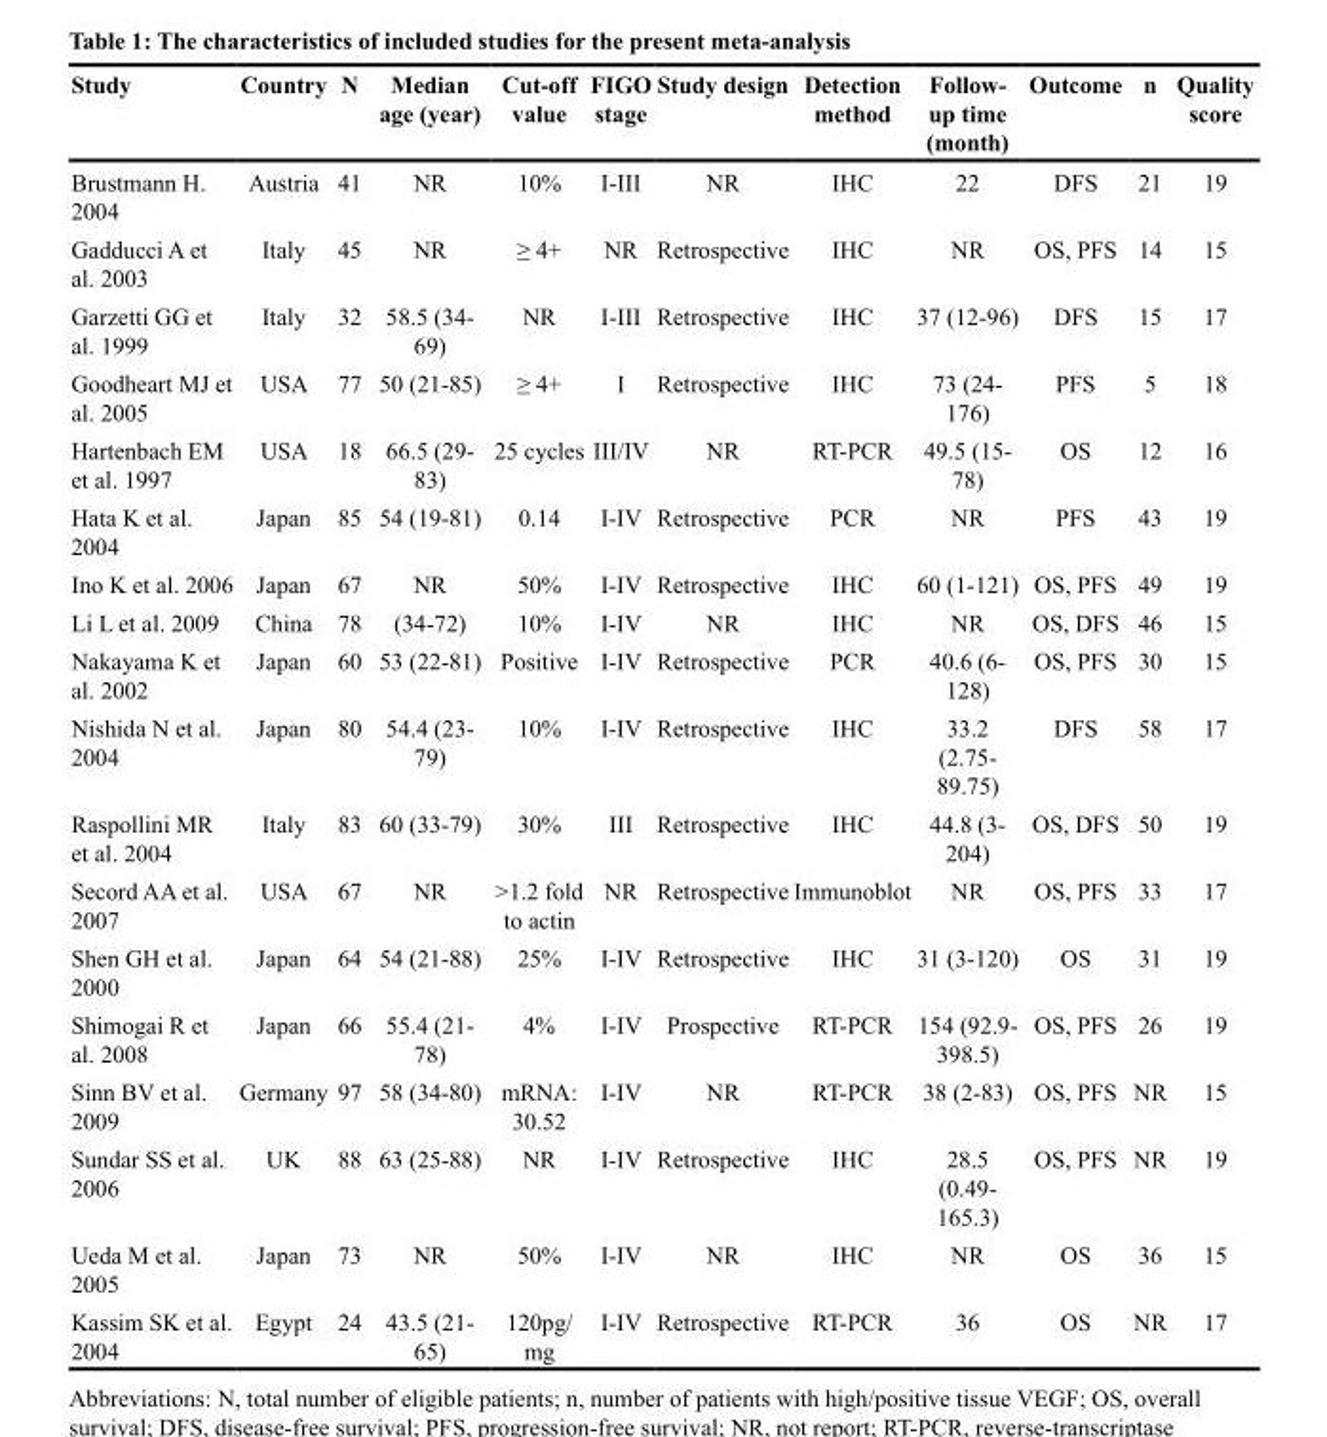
<table><thead><tr><td>Study</td><td>Country</td><td>N</td><td>Median age (year)</td><td>Cut-off value</td><td>FIGO stage</td><td>Study design</td><td>Detection method</td><td>Follow- up time (month)</td><td>Outcome</td><td>n</td><td>Quality score</td></tr></thead><tbody><tr><td>Brustmann H. 2004</td><td>Austria</td><td>41</td><td>NR</td><td>10%</td><td>I-III</td><td>NR</td><td>IHC</td><td>22</td><td>DFS</td><td>21</td><td>19</td></tr><tr><td>Gadducci A et al. 2003</td><td>Italy</td><td>45</td><td>NR</td><td>≥ 4+</td><td>NR</td><td>Retrospective</td><td>IHC</td><td>NR</td><td>OS, PFS</td><td>14</td><td>15</td></tr><tr><td>Garzetti GG et al. 1999</td><td>Italy</td><td>32</td><td>58.5 (34- 69)</td><td>NR</td><td>I-III</td><td>Retrospective</td><td>IHC</td><td>37 (12-96)</td><td>DFS</td><td>15</td><td>17</td></tr><tr><td>Goodheart MJ et al. 2005</td><td>USA</td><td>77</td><td>50 (21-85)</td><td>≥ 4+</td><td>I</td><td>Retrospective</td><td>IHC</td><td>73 (24- 176)</td><td>PFS</td><td>5</td><td>18</td></tr><tr><td>Hartenbach EM et al. 1997</td><td>USA</td><td>18</td><td>66.5 (29- 83)</td><td>25 cycles</td><td>III/IV</td><td>NR</td><td>RT-PCR</td><td>49.5 (15- 78)</td><td>OS</td><td>12</td><td>16</td></tr><tr><td>Hata K et al. 2004</td><td>Japan</td><td>85</td><td>54 (19-81)</td><td>0.14</td><td>I-IV</td><td>Retrospective</td><td>PCR</td><td>NR</td><td>PFS</td><td>43</td><td>19</td></tr><tr><td>Ino K et al. 2006</td><td>Japan</td><td>67</td><td>NR</td><td>50%</td><td>I-IV</td><td>Retrospective</td><td>IHC</td><td>60 (1-121)</td><td>OS, PFS</td><td>49</td><td>19</td></tr><tr><td>Li L et al. 2009</td><td>China</td><td>78</td><td>(34-72)</td><td>10%</td><td>I-IV</td><td>NR</td><td>IHC</td><td>NR</td><td>OS, DFS</td><td>46</td><td>15</td></tr><tr><td>Nakayama K et al. 2002</td><td>Japan</td><td>60</td><td>53 (22-81)</td><td>Positive</td><td>I-IV</td><td>Retrospective</td><td>PCR</td><td>40.6 (6- 128)</td><td>OS, PFS</td><td>30</td><td>15</td></tr><tr><td>Nishida N et al. 2004</td><td>Japan</td><td>80</td><td>54.4 (23- 79)</td><td>10%</td><td>I-IV</td><td>Retrospective</td><td>IHC</td><td>33.2 (2.75- 89.75)</td><td>DFS</td><td>58</td><td>17</td></tr><tr><td>Raspollini MR et al. 2004</td><td>Italy</td><td>83</td><td>60 (33-79)</td><td>30%</td><td>III</td><td>Retrospective</td><td>IHC</td><td>44.8 (3- 204)</td><td>OS, DFS</td><td>50</td><td>19</td></tr><tr><td>Secord AA et al. 2007</td><td>USA</td><td>67</td><td>NR</td><td>&gt;1.2 fold to actin</td><td>NR</td><td>Retrospective</td><td>Immunoblot</td><td>NR</td><td>OS, PFS</td><td>33</td><td>17</td></tr><tr><td>Shen GH et al. 2000</td><td>Japan</td><td>64</td><td>54 (21-88)</td><td>25%</td><td>I-IV</td><td>Retrospective</td><td>IHC</td><td>31 (3-120)</td><td>OS</td><td>31</td><td>19</td></tr><tr><td>Shimogai R et al. 2008</td><td>Japan</td><td>66</td><td>55.4 (21- 78)</td><td>4%</td><td>I-IV</td><td>Prospective</td><td>RT-PCR</td><td>154 (92.9- 398.5)</td><td>OS, PFS</td><td>26</td><td>19</td></tr><tr><td>Sinn BV et al. 2009</td><td>Germany</td><td>97</td><td>58 (34-80)</td><td>mRNA: 30.52</td><td>I-IV</td><td>NR</td><td>RT-PCR</td><td>38 (2-83)</td><td>OS, PFS</td><td>NR</td><td>15</td></tr><tr><td>Sundar SS et al. 2006</td><td>UK</td><td>88</td><td>63 (25-88)</td><td>NR</td><td>I-IV</td><td>Retrospective</td><td>IHC</td><td>28.5 (0.49- 165.3)</td><td>OS, PFS</td><td>NR</td><td>19</td></tr><tr><td>Ueda M et al. 2005</td><td>Japan</td><td>73</td><td>NR</td><td>50%</td><td>I-IV</td><td>NR</td><td>IHC</td><td>NR</td><td>OS</td><td>36</td><td>15</td></tr><tr><td>Kassim SK et al. 2004</td><td>Egypt</td><td>24</td><td>43.5 (21- 65)</td><td>120pg/ mg</td><td>I-IV</td><td>Retrospective</td><td>RT-PCR</td><td>36</td><td>OS</td><td>NR</td><td>17</td></tr></tbody></table>